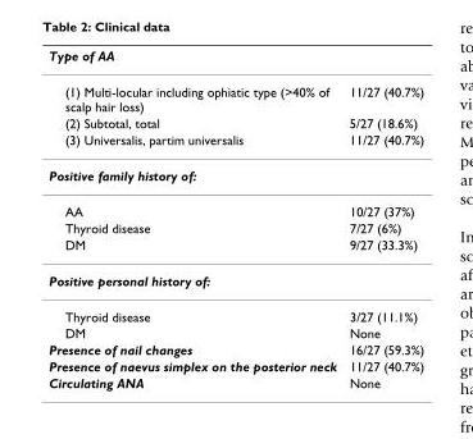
<table><thead><tr><td colspan="2">Type of AA</td></tr><tr><td>(1) Multi-locular including ophiatic type (&gt;40% of scalp hair loss)</td><td>11/27 (40.7%)</td></tr></thead><tbody><tr><td>(2) Subtotal, total</td><td>5/27 (18.6%)</td></tr><tr><td>(3) Universalis, partim universalis</td><td>11/27 (40.7%)</td></tr><tr><td colspan="2">Positive family history of:</td></tr><tr><td>AA</td><td>10/27 (37%)</td></tr><tr><td>Thyroid disease</td><td>7/27 (6%)</td></tr><tr><td>DM</td><td>9/27 (33.3%)</td></tr><tr><td colspan="2">Positive personal history of:</td></tr><tr><td>Thyroid disease</td><td>3/27 (11.1%)</td></tr><tr><td>DM</td><td>None</td></tr><tr><td>Presence of nail changes</td><td>16/27 (59.3%)</td></tr><tr><td>Presence of naevus simplex on the posterior neck</td><td>11/27 (40.7%)</td></tr><tr><td>Circulating ANA</td><td>None</td></tr></tbody></table>